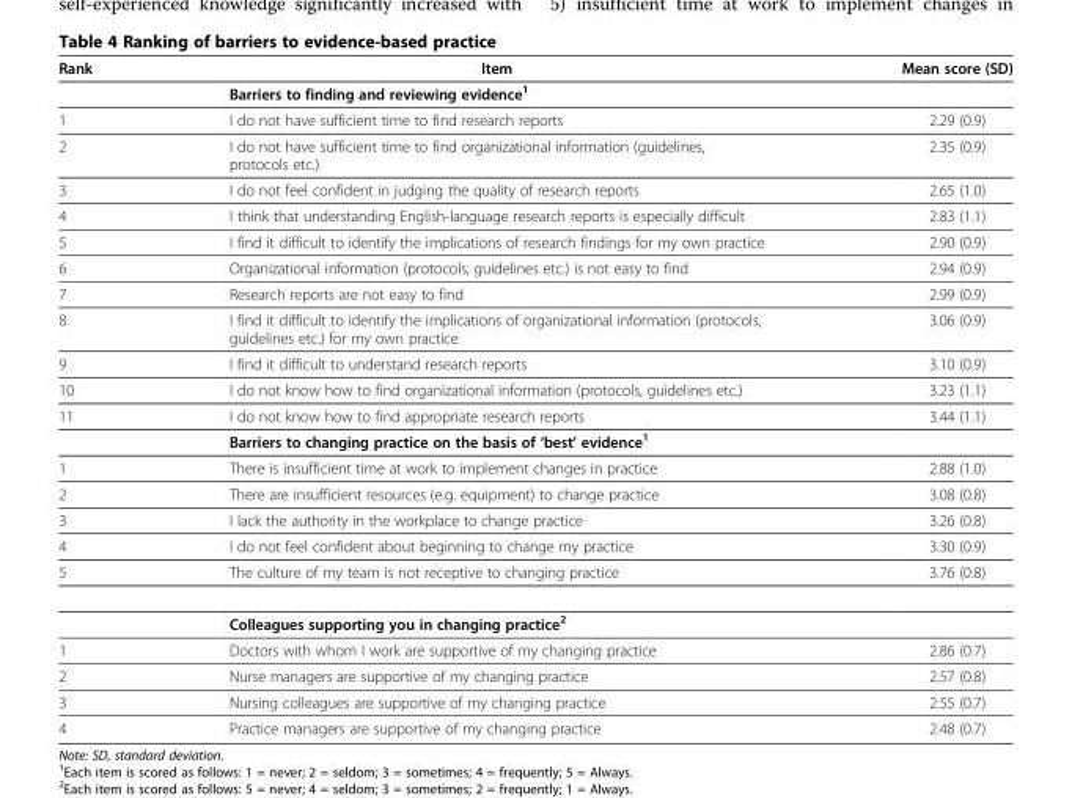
<table><thead><tr><td>Rank</td><td>Item</td><td>Mean score (SD)</td></tr></thead><tbody><tr><td></td><td>Barriers to finding and reviewing evidence<sup>1</sup></td><td></td></tr><tr><td>1</td><td>I do not have sufficient time to find research reports</td><td>2.29 (0.9)</td></tr><tr><td>2</td><td>I do not have sufficient time to find organizational information (guidelines, protocols etc.)</td><td>2.35 (0.9)</td></tr><tr><td>3</td><td>I do not feel confident in judging the quality of research reports</td><td>2.65 (1.0)</td></tr><tr><td>4</td><td>I think that understanding English-language research reports is especially difficult</td><td>2.83 (1.1)</td></tr><tr><td>5</td><td>I find it difficult to identify the implications of research findings for my own practice</td><td>2.90 (0.9)</td></tr><tr><td>6</td><td>Organizational information (protocols, guidelines etc.) is not easy to find</td><td>2.94 (0.9)</td></tr><tr><td>7</td><td>Research reports are not easy to find</td><td>2.99 (0.9)</td></tr><tr><td>8</td><td>I find it difficult to identify the implications of organizational information (protocols, guidelines etc.) for my own practice</td><td>3.06 (0.9)</td></tr><tr><td>9</td><td>I find it difficult to understand research reports</td><td>3.10 (0.9)</td></tr><tr><td>10</td><td>I do not know how to find organizational information (protocols, guidelines etc.)</td><td>3.23 (1.1)</td></tr><tr><td rowspan="2">11</td><td>I do not know how to find appropriate research reports</td><td>3.44 (1.1)</td></tr><tr><td>Barriers to changing practice on the basis of ‘best’ evidence<sup>1</sup></td><td></td></tr><tr><td>1</td><td>There is insufficient time at work to implement changes in practice</td><td>2.88 (1.0)</td></tr><tr><td>2</td><td>There are insufficient resources (e.g. equipment) to change practice</td><td>3.08 (0.8)</td></tr><tr><td>3</td><td>I lack the authority in the workplace to change practice</td><td>3.26 (0.8)</td></tr><tr><td>4</td><td>I do not feel confident about beginning to change my practice</td><td>3.30 (0.9)</td></tr><tr><td rowspan="2">5</td><td>The culture of my team is not receptive to changing practice</td><td>3.76 (0.8)</td></tr><tr><td>Colleagues supporting you in changing practice<sup>2</sup></td><td></td></tr><tr><td>1</td><td>Doctors with whom I work are supportive of my changing practice</td><td>2.86 (0.7)</td></tr><tr><td>2</td><td>Nurse managers are supportive of my changing practice</td><td>2.57 (0.8)</td></tr><tr><td>3</td><td>Nursing colleagues are supportive of my changing practice</td><td>2.55 (0.7)</td></tr><tr><td>4</td><td>Practice managers are supportive of my changing practice</td><td>2.48 (0.7)</td></tr></tbody></table>